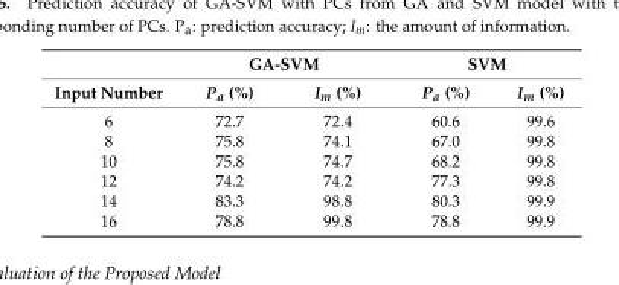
<table><thead><tr><td rowspan="2">Input Number</td><td colspan="2">GA-SVM</td><td colspan="2">SVM</td></tr><tr><td>P<sub>a</sub> (%)</td><td>I<sub>m</sub> (%)</td><td>P<sub>a</sub> (%)</td><td>I<sub>m</sub> (%)</td></tr></thead><tbody><tr><td>6</td><td>72.7</td><td>72.4</td><td>60.6</td><td>99.6</td></tr><tr><td>8</td><td>75.8</td><td>74.1</td><td>67.0</td><td>99.8</td></tr><tr><td>10</td><td>75.8</td><td>74.7</td><td>68.2</td><td>99.8</td></tr><tr><td>12</td><td>74.2</td><td>74.2</td><td>77.3</td><td>99.8</td></tr><tr><td>14</td><td>83.3</td><td>98.8</td><td>80.3</td><td>99.9</td></tr><tr><td>16</td><td>78.8</td><td>99.8</td><td>78.8</td><td>99.9</td></tr></tbody></table>